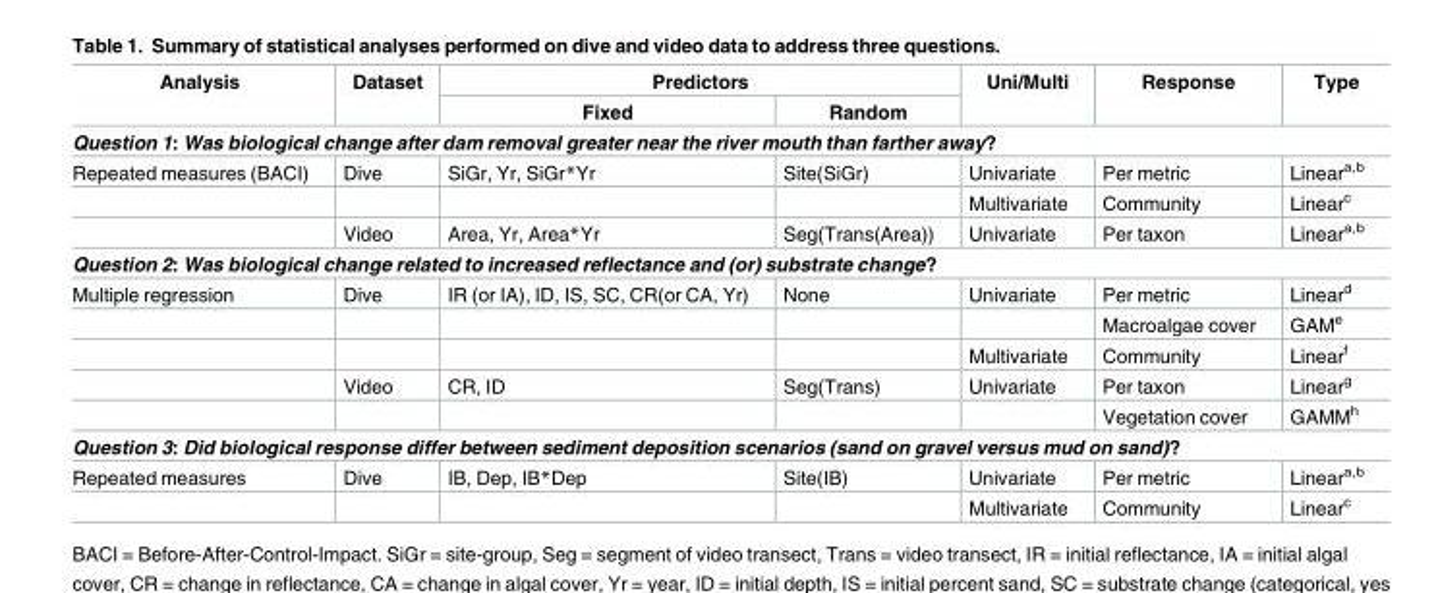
<table><thead><tr><td rowspan="2">Analysis</td><td rowspan="2">Dataset</td><td colspan="2">Predictors</td><td rowspan="2">Uni/Multi</td><td rowspan="2">Response</td><td rowspan="2">Type</td></tr><tr><td>Fixed</td><td>Random</td></tr></thead><tbody><tr><td colspan="7">Question 1: Was biological change after dam removal greater near the river mouth than farther away?</td></tr><tr><td rowspan="3">Repeated measures (BACI)</td><td>Dive</td><td>SiGr, Yr, SiGr*Yr</td><td>Site(SiGr)</td><td>Univariate</td><td>Per metric</td><td>Linear<sup>a,b</sup></td></tr><tr><td></td><td></td><td></td><td>Multivariate</td><td>Community</td><td>Linear<sup>c</sup></td></tr><tr><td>Video</td><td>Area, Yr, Area*Yr</td><td>Seg(Trans(Area))</td><td>Univariate</td><td>Per taxon</td><td>Linear<sup>a,b</sup></td></tr><tr><td colspan="7">Question 2: Was biological change related to increased reflectance and (or) substrate change?</td></tr><tr><td rowspan="5">Multiple regression</td><td>Dive</td><td>IR (or IA), ID, IS, SC, CR(or CA, Yr)</td><td>None</td><td>Univariate</td><td>Per metric</td><td>Linear<sup>d</sup></td></tr><tr><td></td><td></td><td></td><td></td><td>Macroalgae cover</td><td>GAM<sup>e</sup></td></tr><tr><td></td><td></td><td></td><td>Multivariate</td><td>Community</td><td>Linear<sup>f</sup></td></tr><tr><td>Video</td><td>CR, ID</td><td>Seg(Trans)</td><td>Univariate</td><td>Per taxon</td><td>Linear<sup>g</sup></td></tr><tr><td></td><td></td><td></td><td></td><td>Vegetation cover</td><td>GAMM<sup>h</sup></td></tr><tr><td colspan="7">Question 3: Did biological response differ between sediment deposition scenarios (sand on gravel versus mud on sand)?</td></tr><tr><td rowspan="2">Repeated measures</td><td>Dive</td><td>IB, Dep, IB*Dep</td><td>Site(IB)</td><td>Univariate</td><td>Per metric</td><td>Linear<sup>a,b</sup></td></tr><tr><td></td><td></td><td></td><td>Multivariate</td><td>Community</td><td>Linear<sup>c</sup></td></tr></tbody></table>